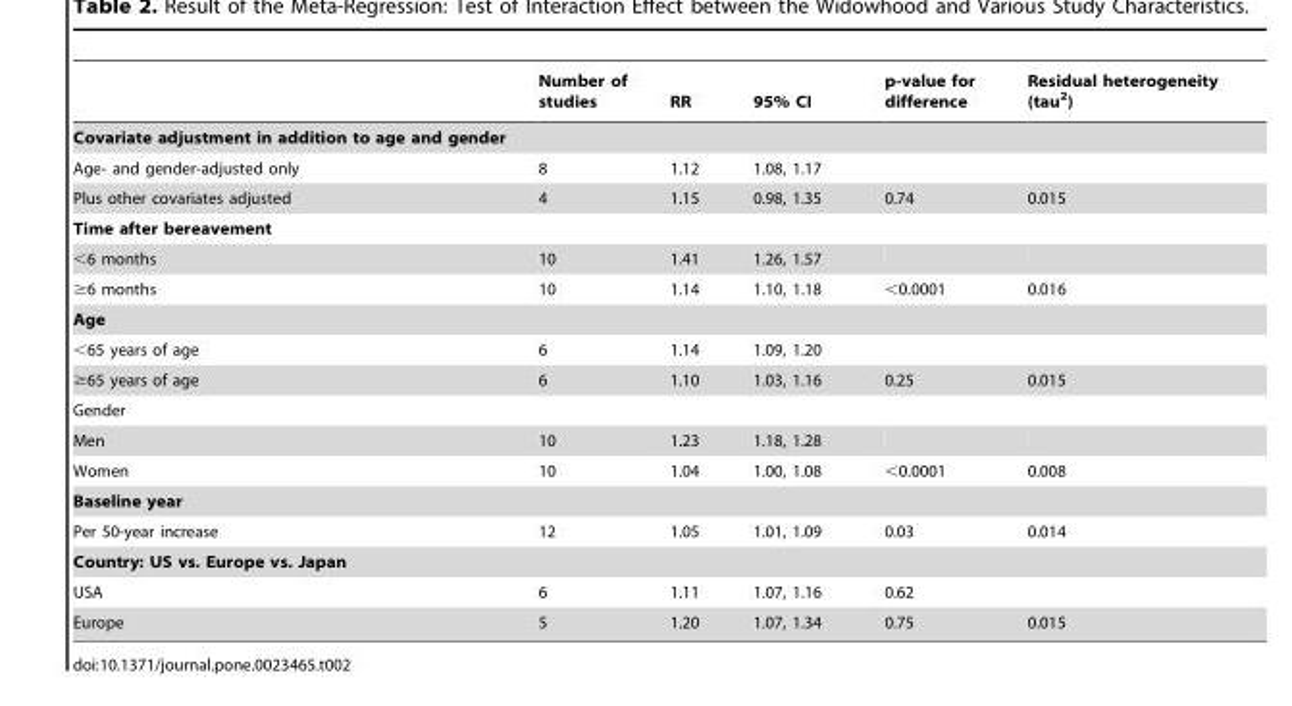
<table><thead><tr><td></td><td>Number of studies</td><td>RR</td><td>95% CI</td><td>p-value for difference</td><td>Residual heterogeneity (tau<sup>2</sup>)</td></tr></thead><tbody><tr><td colspan="6">Covariate adjustment in addition to age and gender</td></tr><tr><td>Age- and gender-adjusted only</td><td>8</td><td>1.12</td><td>1.08, 1.17</td><td></td><td></td></tr><tr><td>Plus other covariates adjusted</td><td>4</td><td>1.15</td><td>0.98, 1.35</td><td>0.74</td><td>0.015</td></tr><tr><td colspan="6">Time after bereavement</td></tr><tr><td>&lt;6 months</td><td>10</td><td>1.41</td><td>1.26, 1.57</td><td></td><td></td></tr><tr><td>≥6 months</td><td>10</td><td>1.14</td><td>1.10, 1.18</td><td>&lt;0.0001</td><td>0.016</td></tr><tr><td colspan="6">Age</td></tr><tr><td>&lt;65 years of age</td><td>6</td><td>1.14</td><td>1.09, 1.20</td><td></td><td></td></tr><tr><td>≥65 years of age</td><td>6</td><td>1.10</td><td>1.03, 1.16</td><td>0.25</td><td>0.015</td></tr><tr><td colspan="6">Gender</td></tr><tr><td>Men</td><td>10</td><td>1.23</td><td>1.18, 1.28</td><td></td><td></td></tr><tr><td>Women</td><td>10</td><td>1.04</td><td>1.00, 1.08</td><td>&lt;0.0001</td><td>0.008</td></tr><tr><td colspan="6">Baseline year</td></tr><tr><td>Per 50-year increase</td><td>12</td><td>1.05</td><td>1.01, 1.09</td><td>0.03</td><td>0.014</td></tr><tr><td colspan="6">Country: US vs. Europe vs. Japan</td></tr><tr><td>USA</td><td>6</td><td>1.11</td><td>1.07, 1.16</td><td>0.62</td><td></td></tr><tr><td>Europe</td><td>5</td><td>1.20</td><td>1.07, 1.34</td><td>0.75</td><td>0.015</td></tr></tbody></table>